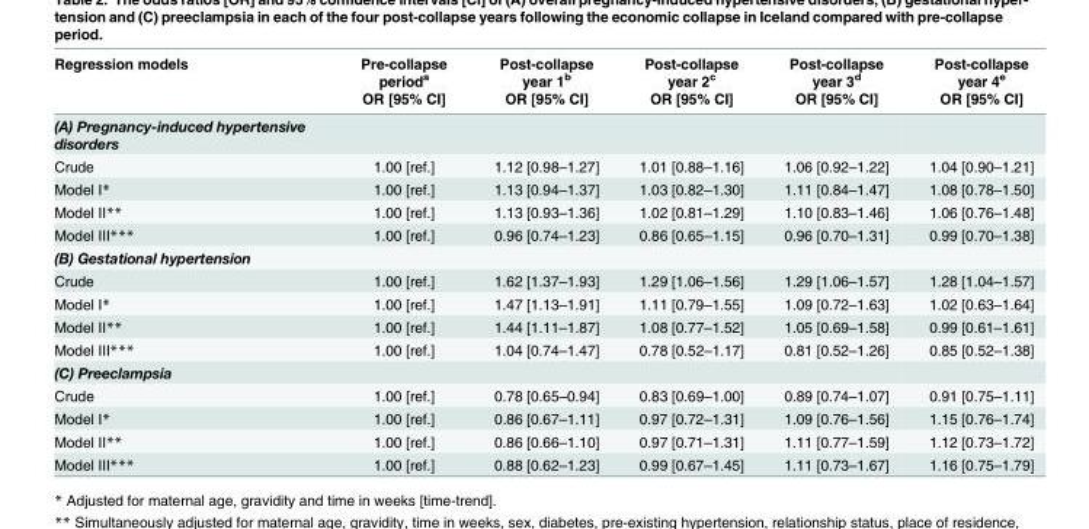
<table><thead><tr><td rowspan="2">Regression models</td><td rowspan="2">Pre-collapse period<sup>a</sup> OR [95% CI]</td><td rowspan="2">Post-collapse year 1<sup>b</sup> OR [95% CI]</td><td rowspan="2">Post-collapse year 2<sup>c</sup> OR [95% CI]</td><td rowspan="2">Post-collapse year 3<sup>d</sup> OR [95% CI]</td><td rowspan="2">Post-collapse year 4<sup>e</sup> OR [95% CI]</td></tr><tr></tr></thead><tbody><tr><td colspan="6">(A) Pregnancy-induced hypertensive disorders</td></tr><tr><td>Crude</td><td>1.00 [ref.]</td><td>1.12 [0.98–1.27]</td><td>1.01 [0.88–1.16]</td><td>1.06 [0.92–1.22]</td><td>1.04 [0.90–1.21]</td></tr><tr><td>Model I*</td><td>1.00 [ref.]</td><td>1.13 [0.94–1.37]</td><td>1.03 [0.82–1.30]</td><td>1.11 [0.84–1.47]</td><td>1.08 [0.78–1.50]</td></tr><tr><td>Model II**</td><td>1.00 [ref.]</td><td>1.13 [0.93–1.36]</td><td>1.02 [0.81–1.29]</td><td>1.10 [0.83–1.46]</td><td>1.06 [0.76–1.48]</td></tr><tr><td>Model III***</td><td>1.00 [ref.]</td><td>0.96 [0.74–1.23]</td><td>0.86 [0.65–1.15]</td><td>0.96 [0.70–1.31]</td><td>0.99 [0.70–1.38]</td></tr><tr><td colspan="6">(B) Gestational hypertension</td></tr><tr><td>Crude</td><td>1.00 [ref.]</td><td>1.62 [1.37–1.93]</td><td>1.29 [1.06–1.56]</td><td>1.29 [1.06–1.57]</td><td>1.28 [1.04–1.57]</td></tr><tr><td>Model I*</td><td>1.00 [ref.]</td><td>1.47 [1.13–1.91]</td><td>1.11 [0.79–1.55]</td><td>1.09 [0.72–1.63]</td><td>1.02 [0.63–1.64]</td></tr><tr><td>Model II**</td><td>1.00 [ref.]</td><td>1.44 [1.11–1.87]</td><td>1.08 [0.77–1.52]</td><td>1.05 [0.69–1.58]</td><td>0.99 [0.61–1.61]</td></tr><tr><td>Model III***</td><td>1.00 [ref.]</td><td>1.04 [0.74–1.47]</td><td>0.78 [0.52–1.17]</td><td>0.81 [0.52–1.26]</td><td>0.85 [0.52–1.38]</td></tr><tr><td colspan="6">(C) Preeclampsia</td></tr><tr><td>Crude</td><td>1.00 [ref.]</td><td>0.78 [0.65–0.94]</td><td>0.83 [0.69–1.00]</td><td>0.89 [0.74–1.07]</td><td>0.91 [0.75–1.11]</td></tr><tr><td>Model I*</td><td>1.00 [ref.]</td><td>0.86 [0.67–1.11]</td><td>0.97 [0.72–1.31]</td><td>1.09 [0.76–1.56]</td><td>1.15 [0.76–1.74]</td></tr><tr><td>Model II**</td><td>1.00 [ref.]</td><td>0.86 [0.66–1.10]</td><td>0.97 [0.71–1.31]</td><td>1.11 [0.77–1.59]</td><td>1.12 [0.73–1.72]</td></tr><tr><td>Model III***</td><td>1.00 [ref.]</td><td>0.88 [0.62–1.23]</td><td>0.99 [0.67–1.45]</td><td>1.11 [0.73–1.67]</td><td>1.16 [0.75–1.79]</td></tr></tbody></table>